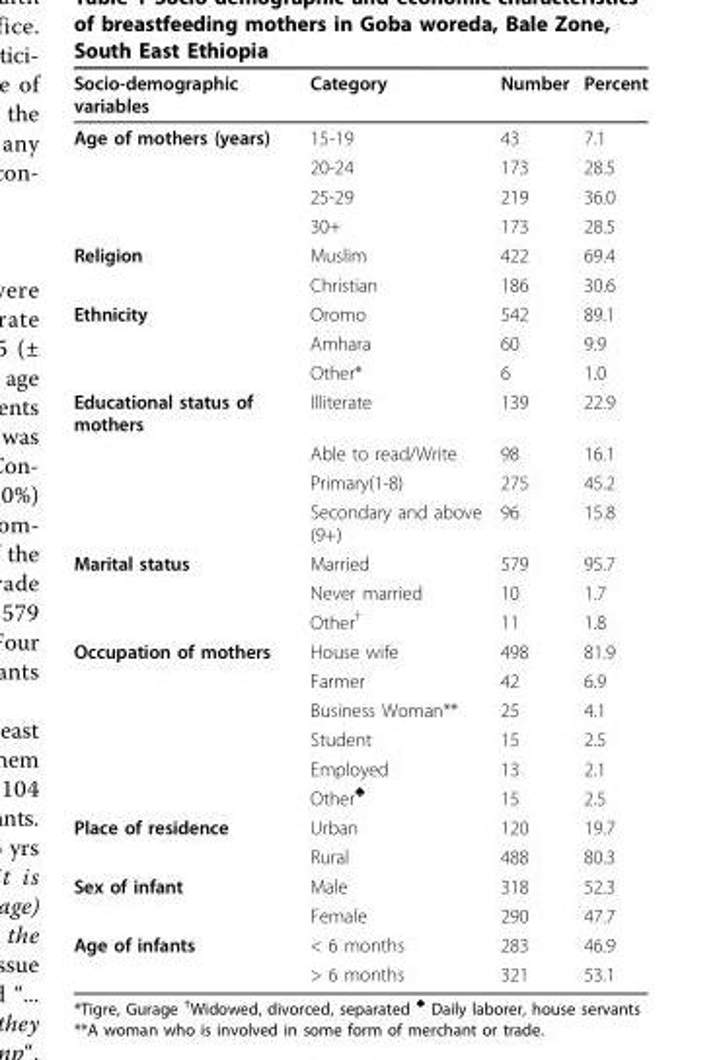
<table><thead><tr><td>Socio-demographic variables</td><td>Category</td><td>Number</td><td>Percent</td></tr></thead><tbody><tr><td rowspan="4">Age of mothers (years)</td><td>15-19</td><td>43</td><td>7.1</td></tr><tr><td>20-24</td><td>173</td><td>28.5</td></tr><tr><td>25-29</td><td>219</td><td>36.0</td></tr><tr><td>30+</td><td>173</td><td>28.5</td></tr><tr><td rowspan="2">Religion</td><td>Muslim</td><td>422</td><td>69.4</td></tr><tr><td>Christian</td><td>186</td><td>30.6</td></tr><tr><td rowspan="3">Ethnicity</td><td>Oromo</td><td>542</td><td>89.1</td></tr><tr><td>Amhara</td><td>60</td><td>9.9</td></tr><tr><td>Other*</td><td>6</td><td>1.0</td></tr><tr><td rowspan="4">Educational status of mothers</td><td>Illiterate</td><td>139</td><td>22.9</td></tr><tr><td>Able to read/Write</td><td>98</td><td>16.1</td></tr><tr><td>Primary(1-8)</td><td>275</td><td>45.2</td></tr><tr><td>Secondary and above (9+)</td><td>96</td><td>15.8</td></tr><tr><td rowspan="3">Marital status</td><td>Married</td><td>579</td><td>95.7</td></tr><tr><td>Never married</td><td>10</td><td>1.7</td></tr><tr><td>Other<sup>†</sup></td><td>11</td><td>1.8</td></tr><tr><td rowspan="6">Occupation of mothers</td><td>House wife</td><td>498</td><td>81.9</td></tr><tr><td>Farmer</td><td>42</td><td>6.9</td></tr><tr><td>Business Woman**</td><td>25</td><td>4.1</td></tr><tr><td>Student</td><td>15</td><td>2.5</td></tr><tr><td>Employed</td><td>13</td><td>2.1</td></tr><tr><td>Other<sup>♠</sup></td><td>15</td><td>2.5</td></tr><tr><td rowspan="2">Place of residence</td><td>Urban</td><td>120</td><td>19.7</td></tr><tr><td>Rural</td><td>488</td><td>80.3</td></tr><tr><td rowspan="2">Sex of infant</td><td>Male</td><td>318</td><td>52.3</td></tr><tr><td>Female</td><td>290</td><td>47.7</td></tr><tr><td rowspan="2">Age of infants</td><td>&lt; 6 months</td><td>283</td><td>46.9</td></tr><tr><td>&gt; 6 months</td><td>321</td><td>53.1</td></tr></tbody></table>